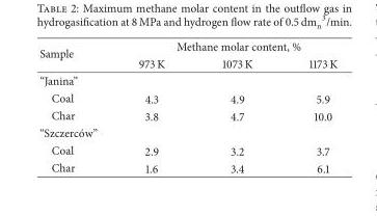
<table><thead><tr><td rowspan="2">Sample</td><td colspan="3">Methane molar content, %</td></tr><tr><td>973 K</td><td>1073 K</td><td>1173 K</td></tr></thead><tbody><tr><td colspan="4">“Janina”</td></tr><tr><td>Coal</td><td>4.3</td><td>4.9</td><td>5.9</td></tr><tr><td>Char</td><td>3.8</td><td>4.7</td><td>10.0</td></tr><tr><td colspan="4">“Szczerc´ow”</td></tr><tr><td>Coal</td><td>2.9</td><td>3.2</td><td>3.7</td></tr><tr><td>Char</td><td>1.6</td><td>3.4</td><td>6.1</td></tr></tbody></table>